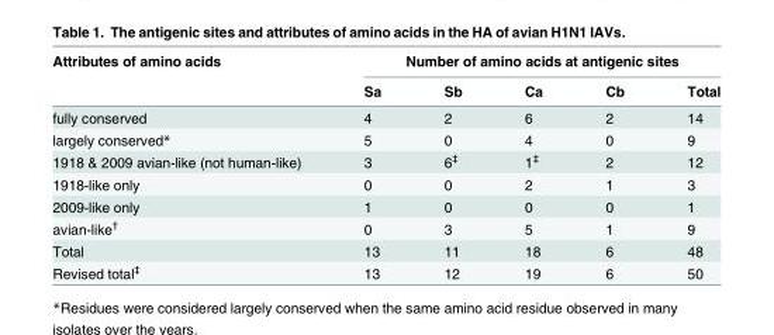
<table><thead><tr><td rowspan="2">Attributes of amino acids</td><td colspan="5">Number of amino acids at antigenic sites</td></tr><tr><td>Sa</td><td>Sb</td><td>Ca</td><td>Cb</td><td>Total</td></tr></thead><tbody><tr><td>fully conserved</td><td>4</td><td>2</td><td>6</td><td>2</td><td>14</td></tr><tr><td>largely conserved*</td><td>5</td><td>0</td><td>4</td><td>0</td><td>9</td></tr><tr><td>1918 &amp; 2009 avian-like (not human-like)</td><td>3</td><td>6<sup>‡</sup></td><td>1<sup>‡</sup></td><td>2</td><td>12</td></tr><tr><td>1918-like only</td><td>0</td><td>0</td><td>2</td><td>1</td><td>3</td></tr><tr><td>2009-like only</td><td>1</td><td>0</td><td>0</td><td>0</td><td>1</td></tr><tr><td>avian-like<sup>†</sup></td><td>0</td><td>3</td><td>5</td><td>1</td><td>9</td></tr><tr><td>Total</td><td>13</td><td>11</td><td>18</td><td>6</td><td>48</td></tr><tr><td>Revised total<sup>‡</sup></td><td>13</td><td>12</td><td>19</td><td>6</td><td>50</td></tr></tbody></table>